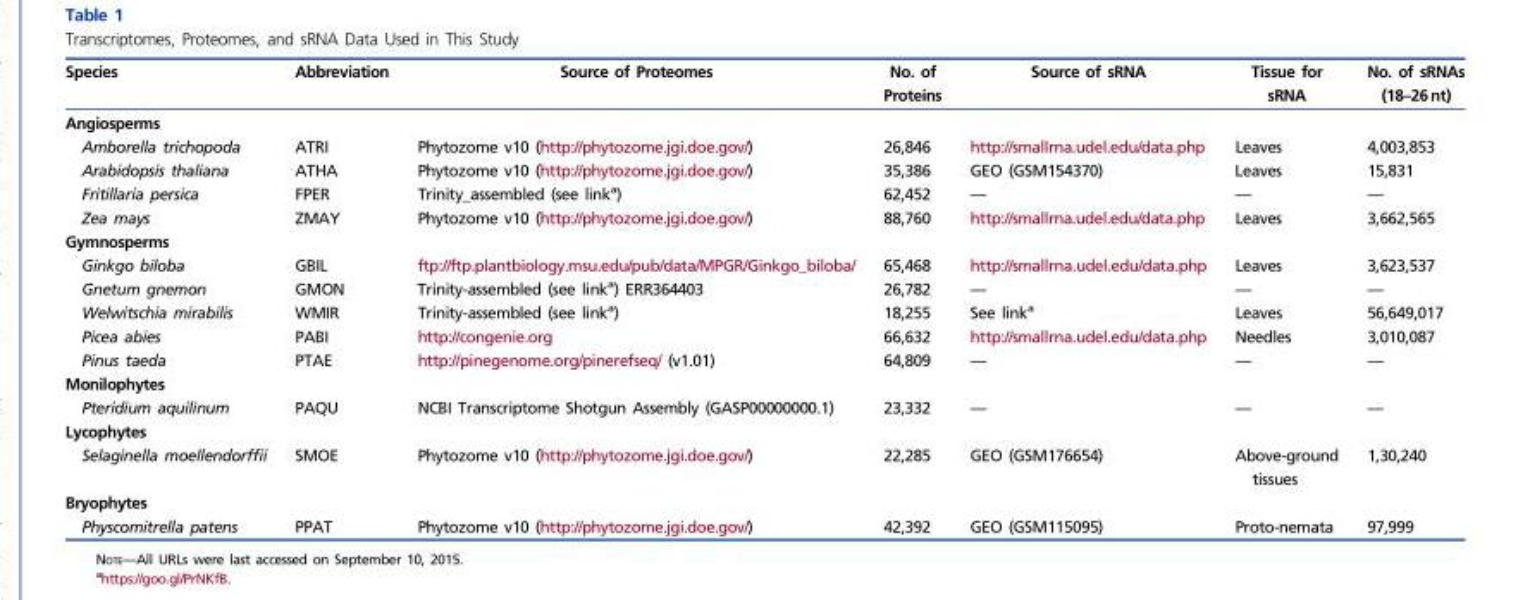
<table><thead><tr><td>Species</td><td>Abbreviation</td><td>Source of Proteomes</td><td>No. of Proteins</td><td>Source of sRNA</td><td>Tissue for sRNA</td><td>No. of sRNAs (18–26nt)</td></tr></thead><tbody><tr><td colspan="7">Angiosperms</td></tr><tr><td>Amborella trichopoda</td><td>ATRI</td><td>Phytozome v10 (http://phytozome.jgi.doe.gov/)</td><td>26,846</td><td>http://smallrna.udel.edu/data.php</td><td>Leaves</td><td>4,003,853</td></tr><tr><td>Arabidopsis thaliana</td><td>ATHA</td><td>Phytozome v10 (http://phytozome.jgi.doe.gov/)</td><td>35,386</td><td>GEO (GSM154370)</td><td>Leaves</td><td>15,831</td></tr><tr><td>Fritillaria persica</td><td>FPER</td><td>Trinity_assembled (see link<sup>a</sup>)</td><td>62,452</td><td>—</td><td>—</td><td>—</td></tr><tr><td>Zea mays</td><td>ZMAY</td><td>Phytozome v10 (http://phytozome.jgi.doe.gov/)</td><td>88,760</td><td>http://smallrna.udel.edu/data.php</td><td>Leaves</td><td>3,662,565</td></tr><tr><td colspan="7">Gymnosperms</td></tr><tr><td>Ginkgo biloba</td><td>GBIL</td><td>ftp://ftp.plantbiology.msu.edu/pub/data/MPGR/Ginkgo_biloba/</td><td>65,468</td><td>http://smallrna.udel.edu/data.php</td><td>Leaves</td><td>3,623,537</td></tr><tr><td>Gnetum gnemon</td><td>GMON</td><td>Trinity-assembled (see link<sup>a</sup>) ERR364403</td><td>26,782</td><td>—</td><td>—</td><td>—</td></tr><tr><td>Welwitschia mirabilis</td><td>WMIR</td><td>Trinity-assembled (see link<sup>a</sup>)</td><td>18,255</td><td>See link<sup>a</sup></td><td>Leaves</td><td>56,649,017</td></tr><tr><td>Picea abies</td><td>PABI</td><td>http://congenie.org</td><td>66,632</td><td>http://smallrna.udel.edu/data.php</td><td>Needles</td><td>3,010,087</td></tr><tr><td>Pinus taeda</td><td>PTAE</td><td>http://pinegenome.org/pinerefseq/ (v1.01)</td><td>64,809</td><td>—</td><td>—</td><td>—</td></tr><tr><td colspan="7">Monilophytes</td></tr><tr><td>Pteridium aquilinum</td><td>PAQU</td><td>NCBI Transcriptome Shotgun Assembly (GASP00000000.1)</td><td>23,332</td><td>—</td><td>—</td><td>—</td></tr><tr><td colspan="7">Lycophytes</td></tr><tr><td>Selaginella moellendorffii</td><td>SMOE</td><td>Phytozome v10 (http://phytozome.jgi.doe.gov/)</td><td>22,285</td><td>GEO (GSM176654)</td><td>Above-ground tissues</td><td>1,30,240</td></tr><tr><td colspan="7">Bryophytes</td></tr><tr><td>Physcomitrella patens</td><td>PPAT</td><td>Phytozome v10 (http://phytozome.jgi.doe.gov/)</td><td>42,392</td><td>GEO (GSM115095)</td><td>Proto-nemata</td><td>97,999</td></tr></tbody></table>